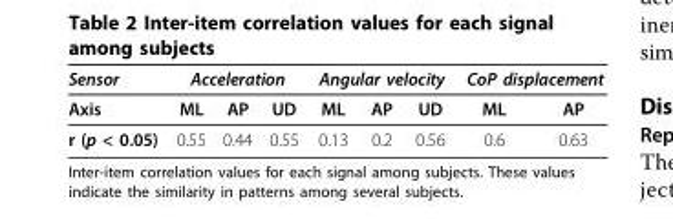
<table><thead><tr><td rowspan="2">Sensor Axis</td><td colspan="3">Acceleration</td><td colspan="3">Angular velocity</td><td colspan="2">CoP displacement</td></tr><tr><td>ML</td><td>AP</td><td>UD</td><td>ML</td><td>AP</td><td>UD</td><td>ML</td><td>AP</td></tr></thead><tbody><tr><td>r (p &lt; 0.05)</td><td>0.55</td><td>0.44</td><td>0.55</td><td>0.13</td><td>0.2</td><td>0.56</td><td>0.6</td><td>0.63</td></tr></tbody></table>